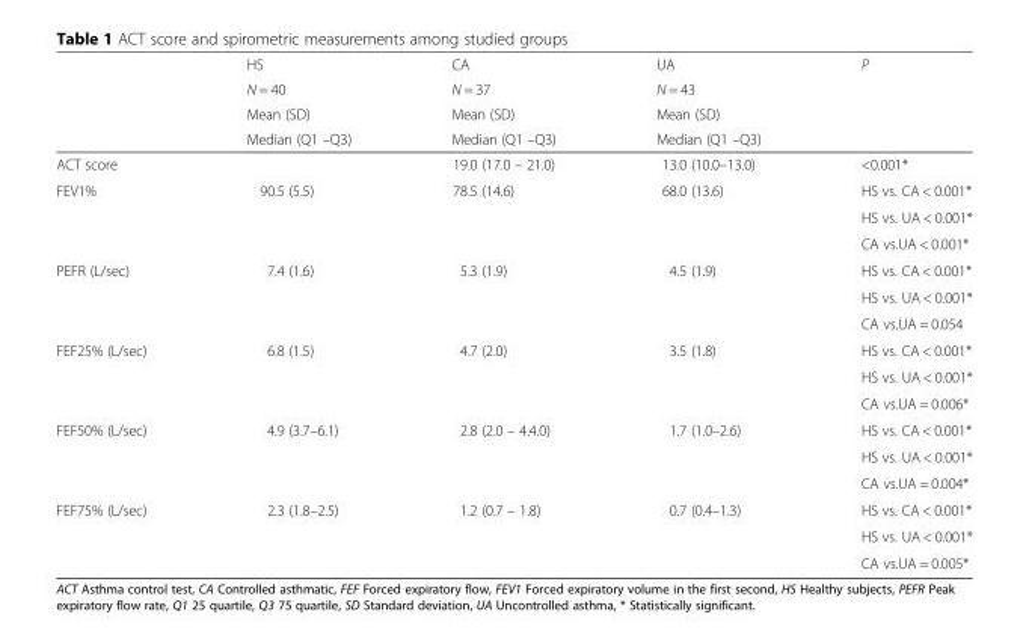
<table><thead><tr><td rowspan="4"></td><td rowspan="4">HS N = 40 Mean (SD) Median (Q1 –Q3)</td><td rowspan="4">CA N = 37 Mean (SD) Median (Q1 –Q3)</td><td rowspan="4">UA N = 43 Mean (SD) Median (Q1 –Q3)</td><td rowspan="4">P</td></tr><tr></tr><tr></tr><tr></tr></thead><tbody><tr><td>ACT score</td><td></td><td>19.0 (17.0 – 21.0)</td><td>13.0 (10.0–13.0)</td><td>&lt;0.001*</td></tr><tr><td rowspan="3">FEV1%</td><td rowspan="3">90.5 (5.5)</td><td rowspan="3">78.5 (14.6)</td><td rowspan="3">68.0 (13.6)</td><td>HS vs. CA &lt; 0.001*</td></tr><tr><td>HS vs. UA &lt; 0.001*</td></tr><tr><td>CA vs.UA &lt; 0.001*</td></tr><tr><td rowspan="3">PEFR (L/sec)</td><td rowspan="3">7.4 (1.6)</td><td rowspan="3">5.3 (1.9)</td><td rowspan="3">4.5 (1.9)</td><td>HS vs. CA &lt; 0.001*</td></tr><tr><td>HS vs. UA &lt; 0.001*</td></tr><tr><td>CA vs.UA = 0.054</td></tr><tr><td rowspan="3">FEF25% (L/sec)</td><td rowspan="3">6.8 (1.5)</td><td rowspan="3">4.7 (2.0)</td><td rowspan="3">3.5 (1.8)</td><td>HS vs. CA &lt; 0.001*</td></tr><tr><td>HS vs. UA &lt; 0.001*</td></tr><tr><td>CA vs.UA = 0.006*</td></tr><tr><td rowspan="3">FEF50% (L/sec)</td><td rowspan="3">4.9 (3.7–6.1)</td><td rowspan="3">2.8 (2.0 – 4.4.0)</td><td rowspan="3">1.7 (1.0–2.6)</td><td>HS vs. CA &lt; 0.001*</td></tr><tr><td>HS vs. UA &lt; 0.001*</td></tr><tr><td>CA vs.UA = 0.004*</td></tr><tr><td rowspan="3">FEF75% (L/sec)</td><td rowspan="3">2.3 (1.8–2.5)</td><td rowspan="3">1.2 (0.7 – 1.8)</td><td rowspan="3">0.7 (0.4–1.3)</td><td>HS vs. CA &lt; 0.001*</td></tr><tr><td>HS vs. UA &lt; 0.001*</td></tr><tr><td>CA vs.UA = 0.005*</td></tr></tbody></table>